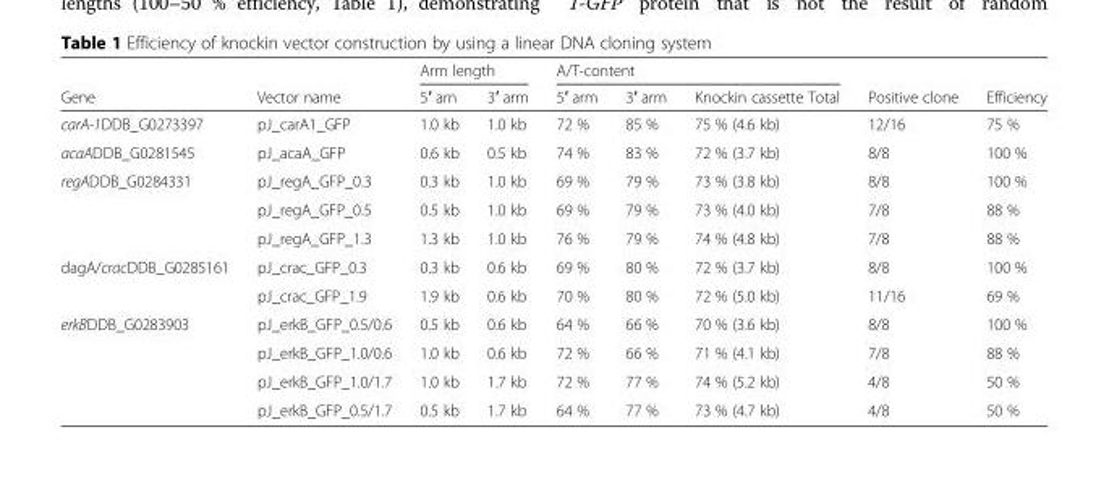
<table><thead><tr><td rowspan="2">Gene</td><td rowspan="2">Vector name</td><td colspan="2">Arm length</td><td colspan="3">A/T-content</td><td rowspan="2">Positive clone</td><td rowspan="2">Efficiency</td></tr><tr><td>5′ arn</td><td>3′ arm</td><td>5′ arm</td><td>3′ arm</td><td>Knockin cassette Total</td></tr></thead><tbody><tr><td>carA-1DDB_G0273397</td><td>pJ_carA1_GFP</td><td>1.0 kb</td><td>1.0 kb</td><td>72 %</td><td>85 %</td><td>75 % (4.6 kb)</td><td>12/16</td><td>75 %</td></tr><tr><td>acaADDB_G0281545</td><td>pJ_acaA_GFP</td><td>0.6 kb</td><td>0.5 kb</td><td>74 %</td><td>83 %</td><td>72 % (3.7 kb)</td><td>8/8</td><td>100 %</td></tr><tr><td rowspan="3">regADDB_G0284331</td><td>pJ_regA_GFP_0.3</td><td>0.3 kb</td><td>1.0 kb</td><td>69 %</td><td>79 %</td><td>73 % (3.8 kb)</td><td>8/8</td><td>100 %</td></tr><tr><td>pJ_regA_GFP_0.5</td><td>0.5 kb</td><td>1.0 kb</td><td>69 %</td><td>79 %</td><td>73 % (4.0 kb)</td><td>7/8</td><td>88 %</td></tr><tr><td>pJ_regA_GFP_1.3</td><td>1.3 kb</td><td>1.0 kb</td><td>76 %</td><td>79 %</td><td>74 % (4.8 kb)</td><td>7/8</td><td>88 %</td></tr><tr><td rowspan="2">dagA/cracDDB_G0285161</td><td>pJ_crac_GFP_0.3</td><td>0.3 kb</td><td>0.6 kb</td><td>69 %</td><td>80 %</td><td>72 % (3.7 kb)</td><td>8/8</td><td>100 %</td></tr><tr><td>pJ_crac_GFP_1.9</td><td>1.9 kb</td><td>0.6 kb</td><td>70 %</td><td>80 %</td><td>72 % (5.0 kb)</td><td>11/16</td><td>69 %</td></tr><tr><td rowspan="4">erkBDDB_G0283903</td><td>pJ_erkB_GFP_0.5/0.6</td><td>0.5 kb</td><td>0.6 kb</td><td>64 %</td><td>66 %</td><td>70 % (3.6 kb)</td><td>8/8</td><td>100 %</td></tr><tr><td>pJ_erkB_GFP_1.0/0.6</td><td>1.0 kb</td><td>0.6 kb</td><td>72 %</td><td>66 %</td><td>71 % (4.1 kb)</td><td>7/8</td><td>88 %</td></tr><tr><td>pJ_erkB_GFP_1.0/1.7</td><td>1.0 kb</td><td>1.7 kb</td><td>72 %</td><td>77 %</td><td>74 % (5.2 kb)</td><td>4/8</td><td>50 %</td></tr><tr><td>pJ_erkB_GFP_0.5/1.7</td><td>0.5 kb</td><td>1.7 kb</td><td>64 %</td><td>77 %</td><td>73 % (4.7 kb)</td><td>4/8</td><td>50 %</td></tr></tbody></table>